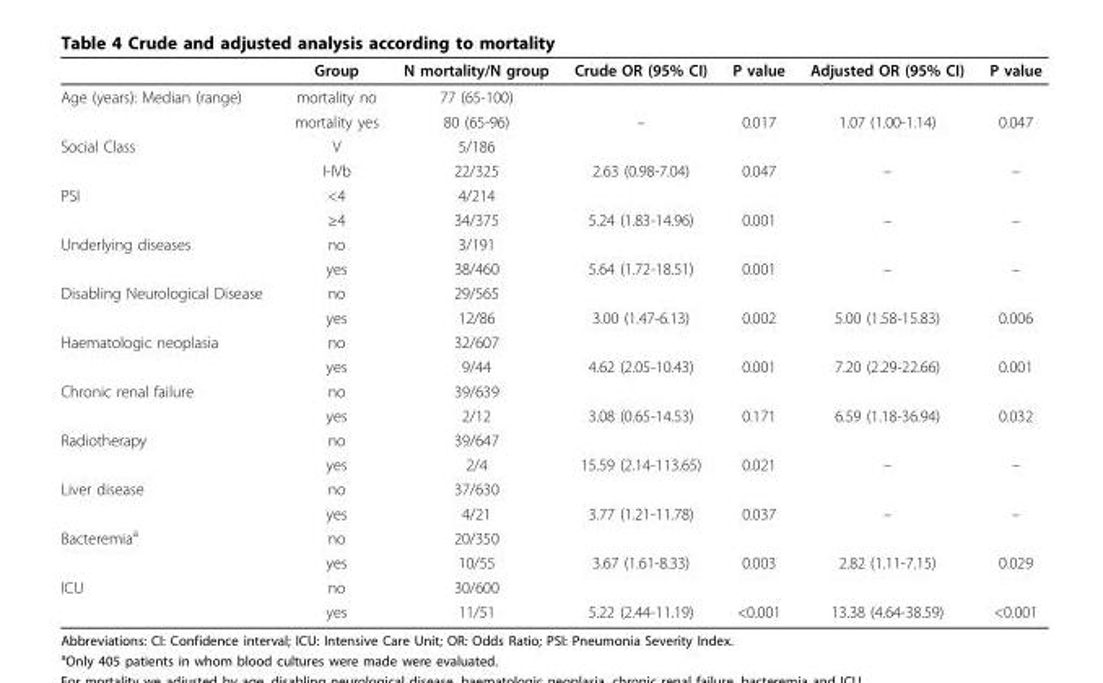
<table><thead><tr><td></td><td>Group</td><td>N mortality/N group</td><td>Crude OR (95% CI)</td><td>P value</td><td>Adjusted OR (95% CI)</td><td>P value</td></tr></thead><tbody><tr><td rowspan="2">Age (years): Median (range)</td><td>mortality no</td><td>77 (65-100)</td><td></td><td></td><td></td><td></td></tr><tr><td>mortality yes</td><td>80 (65-96)</td><td>–</td><td>0.017</td><td>1.07 (1.00-1.14)</td><td>0.047</td></tr><tr><td rowspan="2">Social Class</td><td>V</td><td>5/186</td><td></td><td></td><td></td><td></td></tr><tr><td>I-IVb</td><td>22/325</td><td>2.63 (0.98-7.04)</td><td>0.047</td><td>–</td><td>–</td></tr><tr><td rowspan="2">PSI</td><td>&lt;4</td><td>4/214</td><td></td><td></td><td></td><td></td></tr><tr><td>≥4</td><td>34/375</td><td>5.24 (1.83-14.96)</td><td>0.001</td><td>–</td><td>–</td></tr><tr><td rowspan="2">Underlying diseases</td><td>no</td><td>3/191</td><td></td><td></td><td></td><td></td></tr><tr><td>yes</td><td>38/460</td><td>5.64 (1.72-18.51)</td><td>0.001</td><td>–</td><td>–</td></tr><tr><td rowspan="2">Disabling Neurological Disease</td><td>no</td><td>29/565</td><td></td><td></td><td></td><td></td></tr><tr><td>yes</td><td>12/86</td><td>3.00 (1.47-6.13)</td><td>0.002</td><td>5.00 (1.58-15.83)</td><td>0.006</td></tr><tr><td rowspan="2">Haematologic neoplasia</td><td>no</td><td>32/607</td><td></td><td></td><td></td><td></td></tr><tr><td>yes</td><td>9/44</td><td>4.62 (2.05-10.43)</td><td>0.001</td><td>7.20 (2.29-22.66)</td><td>0.001</td></tr><tr><td rowspan="2">Chronic renal failure</td><td>no</td><td>39/639</td><td></td><td></td><td></td><td></td></tr><tr><td>yes</td><td>2/12</td><td>3.08 (0.65-14.53)</td><td>0.171</td><td>6.59 (1.18-36.94)</td><td>0.032</td></tr><tr><td rowspan="2">Radiotherapy</td><td>no</td><td>39/647</td><td></td><td></td><td></td><td></td></tr><tr><td>yes</td><td>2/4</td><td>15.59 (2.14-113.65)</td><td>0.021</td><td>–</td><td>–</td></tr><tr><td rowspan="2">Liver disease</td><td>no</td><td>37/630</td><td></td><td></td><td></td><td></td></tr><tr><td>yes</td><td>4/21</td><td>3.77 (1.21-11.78)</td><td>0.037</td><td>–</td><td>–</td></tr><tr><td rowspan="2">Bacteremia<sup>a</sup></td><td>no</td><td>20/350</td><td></td><td></td><td></td><td></td></tr><tr><td>yes</td><td>10/55</td><td>3.67 (1.61-8.33)</td><td>0.003</td><td>2.82 (1.11-7.15)</td><td>0.029</td></tr><tr><td rowspan="2">ICU</td><td>no</td><td>30/600</td><td></td><td></td><td></td><td></td></tr><tr><td>yes</td><td>11/51</td><td>5.22 (2.44-11.19)</td><td>&lt;0.001</td><td>13.38 (4.64-38.59)</td><td>&lt;0.001</td></tr></tbody></table>